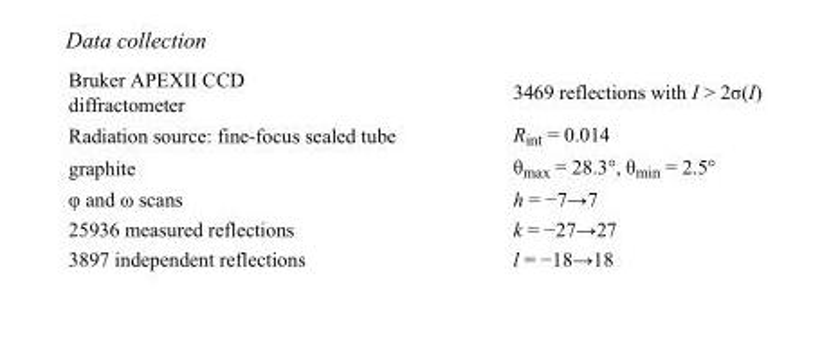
<table><tbody><tr><td>Bruker APEXII CCD diffractometer</td><td>3469 reflections with I &gt; 2σ(I)</td></tr><tr><td>Radiation source: fine-focus sealed tube</td><td>R<sub>int</sub> = 0.014</td></tr><tr><td>graphite</td><td>θ<sub>max</sub> = 28.3°, θ<sub>min</sub> = 2.5°</td></tr><tr><td>φ and ω scans</td><td>h = −7→7</td></tr><tr><td>25936 measured reflections</td><td>k = −27→27</td></tr><tr><td>3897 independent reflections</td><td>l = −18→18</td></tr></tbody></table>